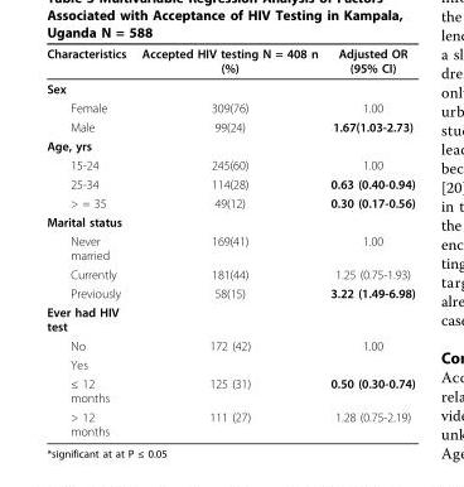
<table><thead><tr><td>Characteristics</td><td>Accepted HIV testing N = 408 n (%)</td><td>Adjusted OR (95% CI)</td></tr></thead><tbody><tr><td colspan="3">Sex</td></tr><tr><td>Female</td><td>309(76)</td><td>1.00</td></tr><tr><td>Male</td><td>99(24)</td><td>1.67(1.03-2.73)</td></tr><tr><td colspan="3">Age, yrs</td></tr><tr><td>15-24</td><td>245(60)</td><td>1.00</td></tr><tr><td>25-34</td><td>114(28)</td><td>0.63 (0.40-0.94)</td></tr><tr><td>&gt; = 35</td><td>49(12)</td><td>0.30 (0.17-0.56)</td></tr><tr><td colspan="3">Marital status</td></tr><tr><td>Never married</td><td>169(41)</td><td>1.00</td></tr><tr><td>Currently</td><td>181(44)</td><td>1.25 (0.75-1.93)</td></tr><tr><td>Previously</td><td>58(15)</td><td>3.22 (1.49-6.98)</td></tr><tr><td colspan="3">Ever had HIV test</td></tr><tr><td>No</td><td>172 (42)</td><td>1.00</td></tr><tr><td colspan="3">Yes</td></tr><tr><td>≤ 12 months</td><td>125 (31)</td><td>0.50 (0.30-0.74)</td></tr><tr><td>&gt; 12 months</td><td>111 (27)</td><td>1.28 (0.75-2.19)</td></tr></tbody></table>